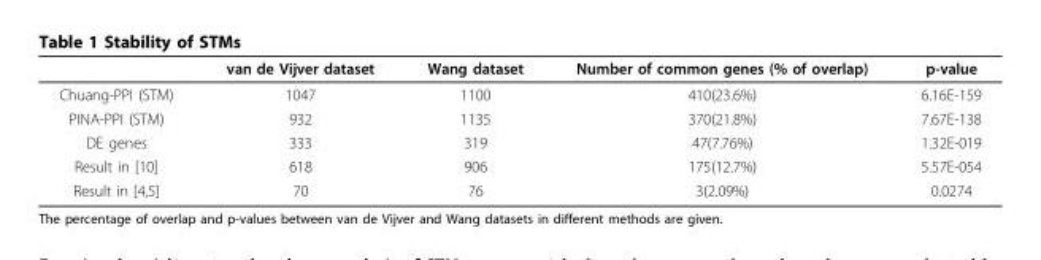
<table><thead><tr><td></td><td>van de Vijver dataset</td><td>Wang dataset</td><td>Number of common genes (% of overlap)</td><td>p-value</td></tr></thead><tbody><tr><td>Chuang-PPI (STM)</td><td>1047</td><td>1100</td><td>410(23.6%)</td><td>6.16E-159</td></tr><tr><td>PINA-PPI (STM)</td><td>932</td><td>1135</td><td>370(21.8%)</td><td>7.67E-138</td></tr><tr><td>DE genes</td><td>333</td><td>319</td><td>47(7.76%)</td><td>1.32E-019</td></tr><tr><td>Result in [10]</td><td>618</td><td>906</td><td>175(12.7%)</td><td>5.57E-054</td></tr><tr><td>Result in [4,5]</td><td>70</td><td>76</td><td>3(2.09%)</td><td>0.0274</td></tr></tbody></table>